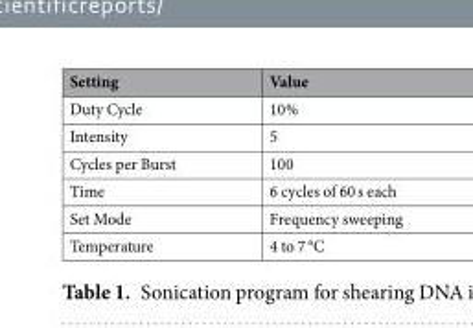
<table><thead><tr><td>Setting</td><td>Value</td></tr></thead><tbody><tr><td>Duty Cycle</td><td>10%</td></tr><tr><td>Intensity</td><td>5</td></tr><tr><td>Cycles per Burst</td><td>100</td></tr><tr><td>Time</td><td>6 cycles of 60 s each</td></tr><tr><td>Set Mode</td><td>Frequency sweeping</td></tr><tr><td>Temperature</td><td>4 to 7 °C</td></tr></tbody></table>